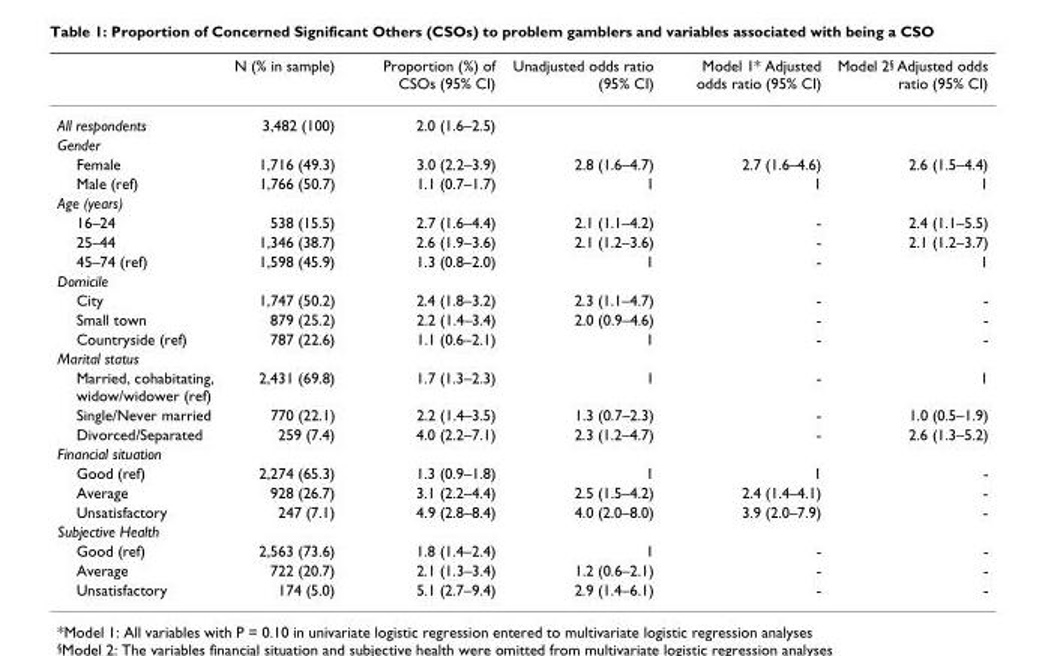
<table><thead><tr><td></td><td>N (% in sample)</td><td>Proportion (%) of CSOs (95% CI)</td><td>Unadjusted odds ratio (95% CI)</td><td>Model 1* Adjusted odds ratio (95% CI)</td><td>Model 2<sup>§</sup> Adjusted odds ratio (95% CI)</td></tr></thead><tbody><tr><td>All respondents</td><td>3,482 (100)</td><td>2.0 (1.6–2.5)</td><td></td><td></td><td></td></tr><tr><td colspan="6">Gender</td></tr><tr><td>Female</td><td>1,716 (49.3)</td><td>3.0 (2.2–3.9)</td><td>2.8 (1.6–4.7)</td><td>2.7 (1.6–4.6)</td><td>2.6 (1.5–4.4)</td></tr><tr><td>Male (ref)</td><td>1,766 (50.7)</td><td>1.1 (0.7–1.7)</td><td>1</td><td>1</td><td>1</td></tr><tr><td colspan="6">Age (years)</td></tr><tr><td>16–24</td><td>538 (15.5)</td><td>2.7 (1.6–4.4)</td><td>2.1 (1.1–4.2)</td><td>-</td><td>2.4 (1.1–5.5)</td></tr><tr><td>25–44</td><td>1,346 (38.7)</td><td>2.6 (1.9–3.6)</td><td>2.1 (1.2–3.6)</td><td>-</td><td>2.1 (1.2–3.7)</td></tr><tr><td>45–74 (ref)</td><td>1,598 (45.9)</td><td>1.3 (0.8–2.0)</td><td>1</td><td>-</td><td>1</td></tr><tr><td colspan="6">Domicile</td></tr><tr><td>City</td><td>1,747 (50.2)</td><td>2.4 (1.8–3.2)</td><td>2.3 (1.1–4.7)</td><td>-</td><td>-</td></tr><tr><td>Small town</td><td>879 (25.2)</td><td>2.2 (1.4–3.4)</td><td>2.0 (0.9–4.6)</td><td>-</td><td>-</td></tr><tr><td>Countryside (ref)</td><td>787 (22.6)</td><td>1.1 (0.6–2.1)</td><td>1</td><td>-</td><td>-</td></tr><tr><td colspan="6">Marital status</td></tr><tr><td>Married, cohabitating, widow/widower (ref)</td><td>2,431 (69.8)</td><td>1.7 (1.3–2.3)</td><td>1</td><td>-</td><td>1</td></tr><tr><td>Single/Never married</td><td>770 (22.1)</td><td>2.2 (1.4–3.5)</td><td>1.3 (0.7–2.3)</td><td>-</td><td>1.0 (0.5–1.9)</td></tr><tr><td>Divorced/Separated</td><td>259 (7.4)</td><td>4.0 (2.2–7.1)</td><td>2.3 (1.2–4.7)</td><td>-</td><td>2.6 (1.3–5.2)</td></tr><tr><td colspan="6">Financial situation</td></tr><tr><td>Good (ref)</td><td>2,274 (65.3)</td><td>1.3 (0.9–1.8)</td><td>1</td><td>1</td><td>-</td></tr><tr><td>Average</td><td>928 (26.7)</td><td>3.1 (2.2–4.4)</td><td>2.5 (1.5–4.2)</td><td>2.4 (1.4–4.1)</td><td>-</td></tr><tr><td>Unsatisfactory</td><td>247 (7.1)</td><td>4.9 (2.8–8.4)</td><td>4.0 (2.0–8.0)</td><td>3.9 (2.0–7.9)</td><td>-</td></tr><tr><td colspan="6">Subjective Health</td></tr><tr><td>Good (ref)</td><td>2,563 (73.6)</td><td>1.8 (1.4–2.4)</td><td>1</td><td>-</td><td>-</td></tr><tr><td>Average</td><td>722 (20.7)</td><td>2.1 (1.3–3.4)</td><td>1.2 (0.6–2.1)</td><td>-</td><td>-</td></tr><tr><td>Unsatisfactory</td><td>174 (5.0)</td><td>5.1 (2.7–9.4)</td><td>2.9 (1.4–6.1)</td><td>-</td><td>-</td></tr></tbody></table>